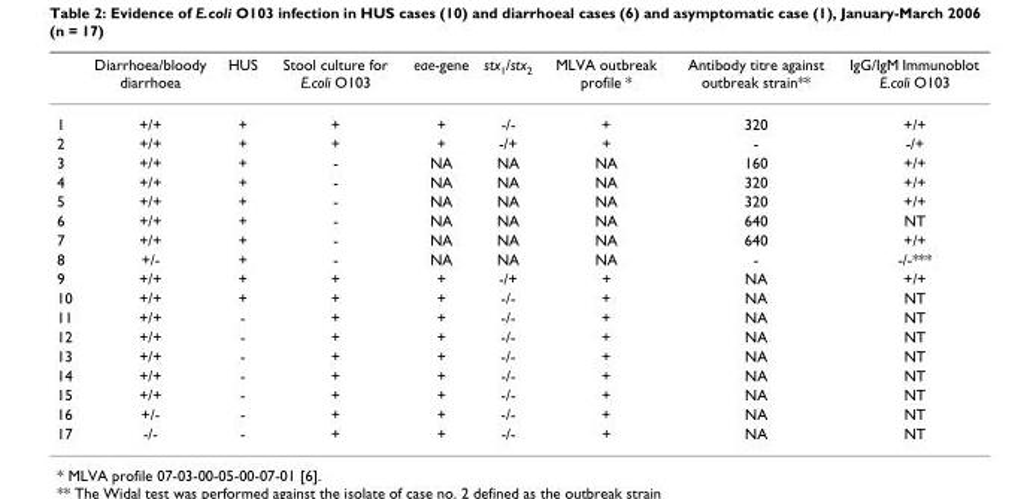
<table><thead><tr><td></td><td>Diarrhoea/bloody diarrhoea</td><td>HUS</td><td>Stool culture for E.coli O103</td><td>eae-gene</td><td>stx<sub>1</sub>/stx<sub>2</sub></td><td>MLVA outbreak profile *</td><td>Antibody titre against outbreak strain**</td><td>IgG/IgM Immunoblot E.coli O103</td></tr></thead><tbody><tr><td>1</td><td>+/+</td><td>+</td><td>+</td><td>+</td><td>-/-</td><td>+</td><td>320</td><td>+/+</td></tr><tr><td>2</td><td>+/+</td><td>+</td><td>+</td><td>+</td><td>-/+</td><td>+</td><td>-</td><td>-/+</td></tr><tr><td>3</td><td>+/+</td><td>+</td><td>-</td><td>NA</td><td>NA</td><td>NA</td><td>160</td><td>+/+</td></tr><tr><td>4</td><td>+/+</td><td>+</td><td>-</td><td>NA</td><td>NA</td><td>NA</td><td>320</td><td>+/+</td></tr><tr><td>5</td><td>+/+</td><td>+</td><td>-</td><td>NA</td><td>NA</td><td>NA</td><td>320</td><td>+/+</td></tr><tr><td>6</td><td>+/+</td><td>+</td><td>-</td><td>NA</td><td>NA</td><td>NA</td><td>640</td><td>NT</td></tr><tr><td>7</td><td>+/+</td><td>+</td><td>-</td><td>NA</td><td>NA</td><td>NA</td><td>640</td><td>+/+</td></tr><tr><td>8</td><td>+/-</td><td>+</td><td>-</td><td>NA</td><td>NA</td><td>NA</td><td>-</td><td>-/-***</td></tr><tr><td>9</td><td>+/+</td><td>+</td><td>+</td><td>+</td><td>-/+</td><td>+</td><td>NA</td><td>+/+</td></tr><tr><td>10</td><td>+/+</td><td>+</td><td>+</td><td>+</td><td>-/-</td><td>+</td><td>NA</td><td>NT</td></tr><tr><td>11</td><td>+/+</td><td>-</td><td>+</td><td>+</td><td>-/-</td><td>+</td><td>NA</td><td>NT</td></tr><tr><td>12</td><td>+/+</td><td>-</td><td>+</td><td>+</td><td>-/-</td><td>+</td><td>NA</td><td>NT</td></tr><tr><td>13</td><td>+/+</td><td>-</td><td>+</td><td>+</td><td>-/-</td><td>+</td><td>NA</td><td>NT</td></tr><tr><td>14</td><td>+/+</td><td>-</td><td>+</td><td>+</td><td>-/-</td><td>+</td><td>NA</td><td>NT</td></tr><tr><td>15</td><td>+/+</td><td>-</td><td>+</td><td>+</td><td>-/-</td><td>+</td><td>NA</td><td>NT</td></tr><tr><td>16</td><td>+/-</td><td>-</td><td>+</td><td>+</td><td>-/-</td><td>+</td><td>NA</td><td>NT</td></tr><tr><td>17</td><td>-/-</td><td>-</td><td>+</td><td>+</td><td>-/-</td><td>+</td><td>NA</td><td>NT</td></tr></tbody></table>